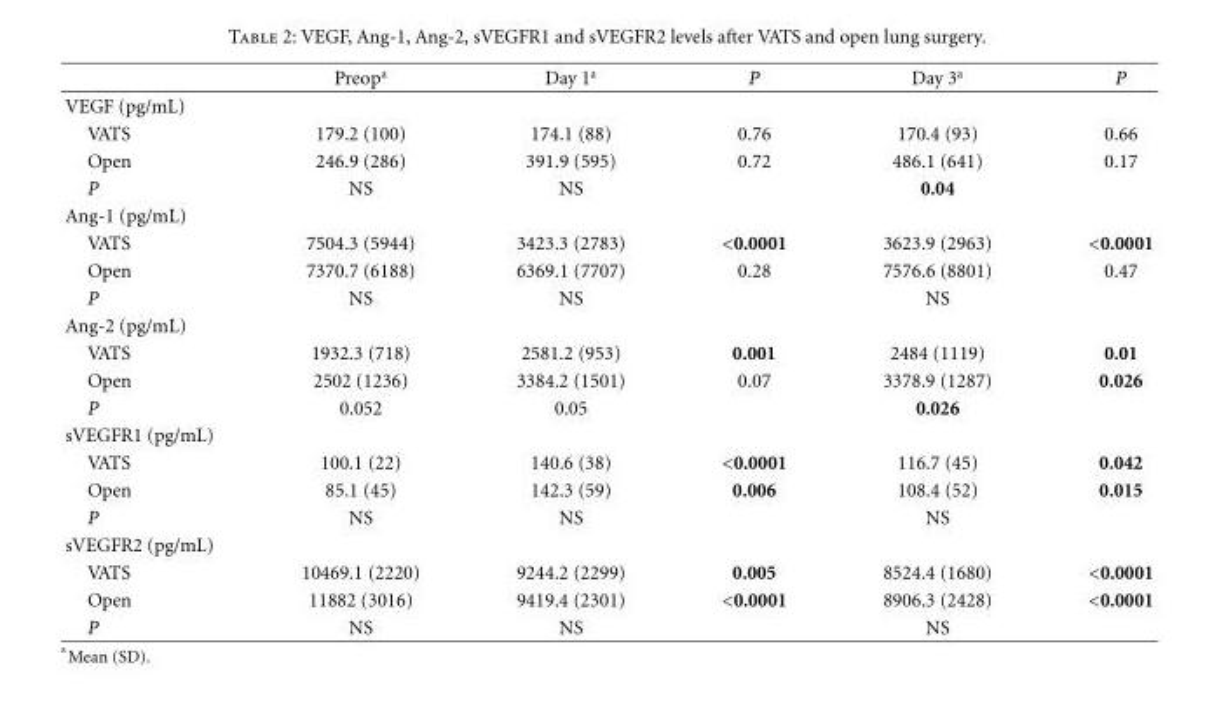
<table><thead><tr><td></td><td>Preop<sup>a</sup></td><td>Day 1<sup>a</sup></td><td>P</td><td>Day 3<sup>a</sup></td><td>P</td></tr></thead><tbody><tr><td colspan="6">VEGF (pg/mL)</td></tr><tr><td>VATS</td><td>179.2 (100)</td><td>174.1 (88)</td><td>0.76</td><td>170.4 (93)</td><td>0.66</td></tr><tr><td>Open</td><td>246.9 (286)</td><td>391.9 (595)</td><td>0.72</td><td>486.1 (641)</td><td>0.17</td></tr><tr><td>P</td><td>NS</td><td>NS</td><td></td><td>0.04</td><td></td></tr><tr><td colspan="6">Ang-1 (pg/mL)</td></tr><tr><td>VATS</td><td>7504.3 (5944)</td><td>3423.3 (2783)</td><td>&lt;0.0001</td><td>3623.9 (2963)</td><td>&lt;0.0001</td></tr><tr><td>Open</td><td>7370.7 (6188)</td><td>6369.1 (7707)</td><td>0.28</td><td>7576.6 (8801)</td><td>0.47</td></tr><tr><td>P</td><td>NS</td><td>NS</td><td></td><td>NS</td><td></td></tr><tr><td colspan="6">Ang-2 (pg/mL)</td></tr><tr><td>VATS</td><td>1932.3 (718)</td><td>2581.2 (953)</td><td>0.001</td><td>2484 (1119)</td><td>0.01</td></tr><tr><td>Open</td><td>2502 (1236)</td><td>3384.2 (1501)</td><td>0.07</td><td>3378.9 (1287)</td><td>0.026</td></tr><tr><td>P</td><td>0.052</td><td>0.05</td><td></td><td>0.026</td><td></td></tr><tr><td colspan="6">sVEGFR1 (pg/mL)</td></tr><tr><td>VATS</td><td>100.1 (22)</td><td>140.6 (38)</td><td>&lt;0.0001</td><td>116.7 (45)</td><td>0.042</td></tr><tr><td>Open</td><td>85.1 (45)</td><td>142.3 (59)</td><td>0.006</td><td>108.4 (52)</td><td>0.015</td></tr><tr><td>P</td><td>NS</td><td>NS</td><td></td><td>NS</td><td></td></tr><tr><td colspan="6">sVEGFR2 (pg/mL)</td></tr><tr><td>VATS</td><td>10469.1 (2220)</td><td>9244.2 (2299)</td><td>0.005</td><td>8524.4 (1680)</td><td>&lt;0.0001</td></tr><tr><td>Open</td><td>11882 (3016)</td><td>9419.4 (2301)</td><td>&lt;0.0001</td><td>8906.3 (2428)</td><td>&lt;0.0001</td></tr><tr><td>P</td><td>NS</td><td>NS</td><td></td><td>NS</td><td></td></tr></tbody></table>